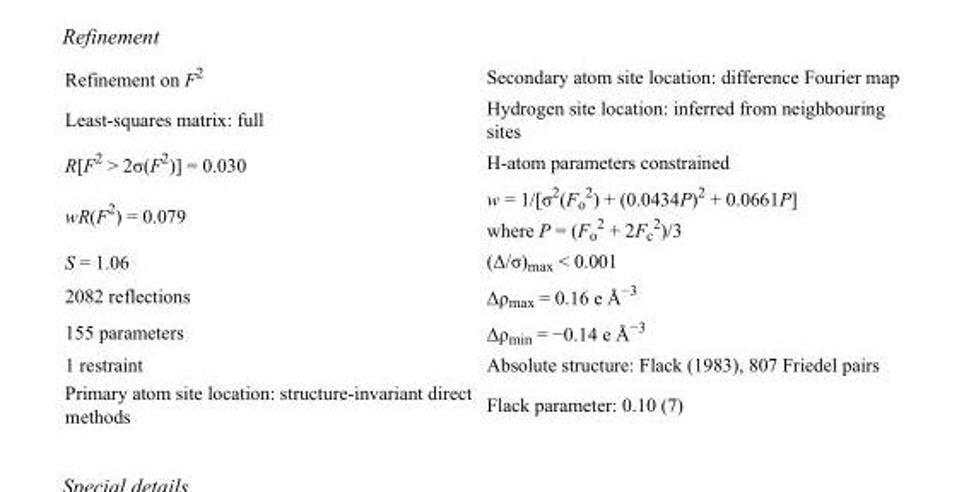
<table><tbody><tr><td>Refinement on F<sup>2</sup></td><td>Secondary atom site location: difference Fourier map</td></tr><tr><td>Least-squares matrix: full</td><td>Hydrogen site location: inferred from neighbouring sites</td></tr><tr><td>R[F<sup>2</sup> &gt; 2σ(F<sup>2</sup>)] = 0.030</td><td>H-atom parameters constrained</td></tr><tr><td>wR(F<sup>2</sup>) = 0.079</td><td>w = 1/[σ<sup>2</sup>(F<sub>o</sub> <sup>2</sup>) + (0.0434P)<sup>2</sup> + 0.0661P] where P = (F<sub>o</sub> <sup>2</sup> + 2F<sub>c</sub> <sup>2</sup>)/3</td></tr><tr><td>S = 1.06</td><td>(Δ/σ)<sub>max</sub> &lt; 0.001</td></tr><tr><td>2082 reflections</td><td>Δρ<sub>max</sub> = 0.16 e Å<sup>−3</sup></td></tr><tr><td>155 parameters</td><td>Δρ<sub>min</sub> = −0.14 e Å<sup>−3</sup></td></tr><tr><td>1 restraint</td><td>Absolute structure: Flack (1983), 807 Friedel pairs</td></tr><tr><td>Primary atom site location: structure-invariant direct methods</td><td>Flack parameter: 0.10 (7)</td></tr></tbody></table>